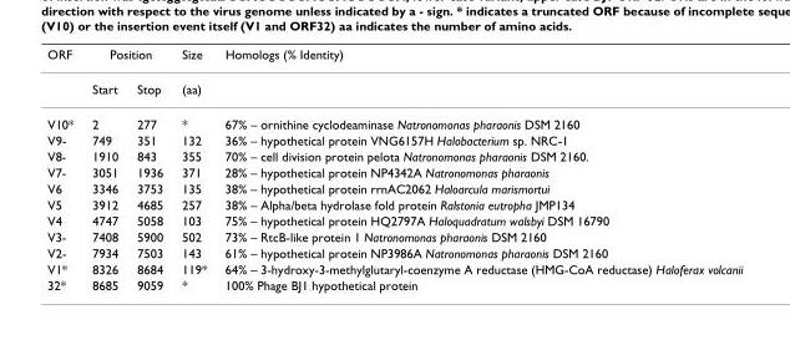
<table><thead><tr><td rowspan="2">ORF</td><td colspan="2">Position</td><td rowspan="2">Size (aa)</td><td rowspan="2">Homologs (% Identity)</td></tr><tr><td>Start</td><td>Stop</td></tr></thead><tbody><tr><td>V10*</td><td>2</td><td>277</td><td>*</td><td>67% – ornithine cyclodeaminase Natronomonas pharaonis DSM 2160</td></tr><tr><td>V9-</td><td>749</td><td>351</td><td>132</td><td>36% – hypothetical protein VNG6157H Halobacterium sp. NRC-1</td></tr><tr><td>V8-</td><td>1910</td><td>843</td><td>355</td><td>70% – cell division protein pelota Natronomonas pharaonis DSM 2160.</td></tr><tr><td>V7-</td><td>3051</td><td>1936</td><td>371</td><td>28% – hypothetical protein NP4342A Natronomonas pharaonis</td></tr><tr><td>V6</td><td>3346</td><td>3753</td><td>135</td><td>38% – hypothetical protein rrnAC2062 Haloarcula marismortui</td></tr><tr><td>V5</td><td>3912</td><td>4685</td><td>257</td><td>38% – Alpha/beta hydrolase fold protein Ralstonia eutropha JMP134</td></tr><tr><td>V4</td><td>4747</td><td>5058</td><td>103</td><td>75% – hypothetical protein HQ2797A Haloquadratum walsbyi DSM 16790</td></tr><tr><td>V3-</td><td>7408</td><td>5900</td><td>502</td><td>73% – RtcB-like protein 1 Natronomonas pharaonis DSM 2160</td></tr><tr><td>V2-</td><td>7934</td><td>7503</td><td>143</td><td>61% – hypothetical protein NP3986A Natronomonas pharaonis DSM 2160</td></tr><tr><td>V1*</td><td>8326</td><td>8684</td><td>119*</td><td>64% – 3-hydroxy-3-methylglutaryl-coenzyme A reductase (HMG-CoA reductase) Haloferax volcanii</td></tr><tr><td>32*</td><td>8685</td><td>9059</td><td>*</td><td>100% Phage BJ1 hypothetical protein</td></tr></tbody></table>